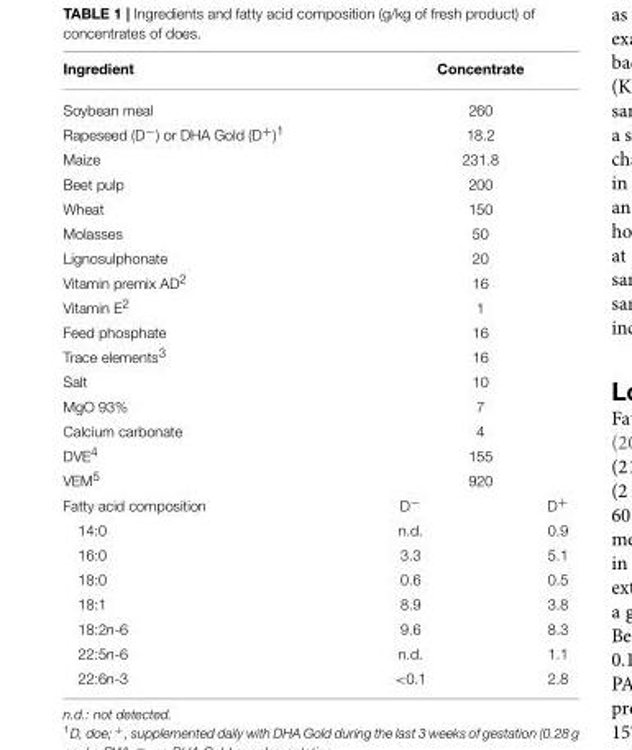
<table><thead><tr><td>Ingredient</td><td colspan="2">Concentrate</td></tr></thead><tbody><tr><td>Soybean meal</td><td colspan="2">260</td></tr><tr><td>Rapeseed (D<sup>−</sup>) or DHA Gold (D<sup>+</sup>)<sup>1</sup></td><td colspan="2">18.2</td></tr><tr><td>Maize</td><td colspan="2">231.8</td></tr><tr><td>Beet pulp</td><td colspan="2">200</td></tr><tr><td>Wheat</td><td colspan="2">150</td></tr><tr><td>Molasses</td><td colspan="2">50</td></tr><tr><td>Lignosulphonate</td><td colspan="2">20</td></tr><tr><td>Vitamin premix AD<sup>2</sup></td><td colspan="2">16</td></tr><tr><td>Vitamin E<sup>2</sup></td><td colspan="2">1</td></tr><tr><td>Feed phosphate</td><td colspan="2">16</td></tr><tr><td>Trace elements<sup>3</sup></td><td colspan="2">16</td></tr><tr><td>Salt</td><td colspan="2">10</td></tr><tr><td>MgO 93%</td><td colspan="2">7</td></tr><tr><td>Calcium carbonate</td><td colspan="2">4</td></tr><tr><td>DVE<sup>4</sup></td><td colspan="2">155</td></tr><tr><td>VEM<sup>5</sup></td><td colspan="2">920</td></tr><tr><td>Fatty acid composition</td><td>D<sup>−</sup></td><td>D<sup>+</sup></td></tr><tr><td>14:0</td><td>n.d.</td><td>0.9</td></tr><tr><td>16:0</td><td>3.3</td><td>5.1</td></tr><tr><td>18:0</td><td>0.6</td><td>0.5</td></tr><tr><td>18:1</td><td>8.9</td><td>3.8</td></tr><tr><td>18:2n-6</td><td>9.6</td><td>8.3</td></tr><tr><td>22:5n-6</td><td>n.d.</td><td>1.1</td></tr><tr><td>22:6n-3</td><td>&lt;0.1</td><td>2.8</td></tr></tbody></table>